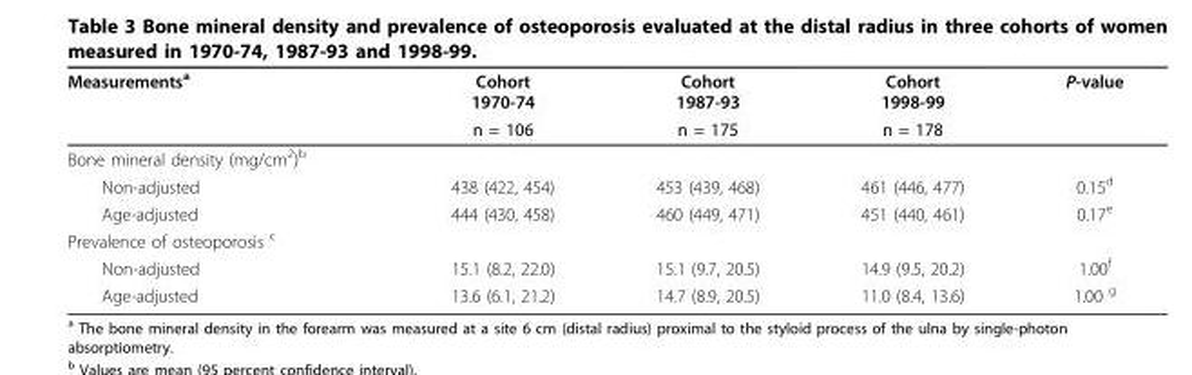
<table><thead><tr><td rowspan="2">Measurements<sup>a</sup></td><td rowspan="2">Cohort 1970-74 n = 106</td><td rowspan="2">Cohort 1987-93 n = 175</td><td rowspan="2">Cohort 1998-99 n = 178</td><td rowspan="2">P-value</td></tr><tr></tr></thead><tbody><tr><td colspan="5">Bone mineral density (mg/cm<sup>2</sup>)<sup>b</sup></td></tr><tr><td>Non-adjusted</td><td>438 (422, 454)</td><td>453 (439, 468)</td><td>461 (446, 477)</td><td>0.15<sup>d</sup></td></tr><tr><td>Age-adjusted</td><td>444 (430, 458)</td><td>460 (449, 471)</td><td>451 (440, 461)</td><td>0.17<sup>e</sup></td></tr><tr><td colspan="5">Prevalence of osteoporosis <sup>c</sup></td></tr><tr><td>Non-adjusted</td><td>15.1 (8.2, 22.0)</td><td>15.1 (9.7, 20.5)</td><td>14.9 (9.5, 20.2)</td><td>1.00<sup>f</sup></td></tr><tr><td>Age-adjusted</td><td>13.6 (6.1, 21.2)</td><td>14.7 (8.9, 20.5)</td><td>11.0 (8.4, 13.6)</td><td>1.00 <sup>g</sup></td></tr></tbody></table>